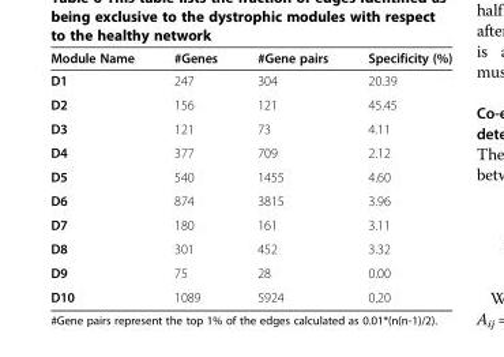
<table><thead><tr><td>Module Name</td><td>#Genes</td><td>#Gene pairs</td><td>Specificity (%)</td></tr></thead><tbody><tr><td>D1</td><td>247</td><td>304</td><td>20.39</td></tr><tr><td>D2</td><td>156</td><td>121</td><td>45.45</td></tr><tr><td>D3</td><td>121</td><td>73</td><td>4.11</td></tr><tr><td>D4</td><td>377</td><td>709</td><td>2.12</td></tr><tr><td>D5</td><td>540</td><td>1455</td><td>4.60</td></tr><tr><td>D6</td><td>874</td><td>3815</td><td>3.96</td></tr><tr><td>D7</td><td>180</td><td>161</td><td>3.11</td></tr><tr><td>D8</td><td>301</td><td>452</td><td>3.32</td></tr><tr><td>D9</td><td>75</td><td>28</td><td>0.00</td></tr><tr><td>D10</td><td>1089</td><td>5924</td><td>0.20</td></tr></tbody></table>